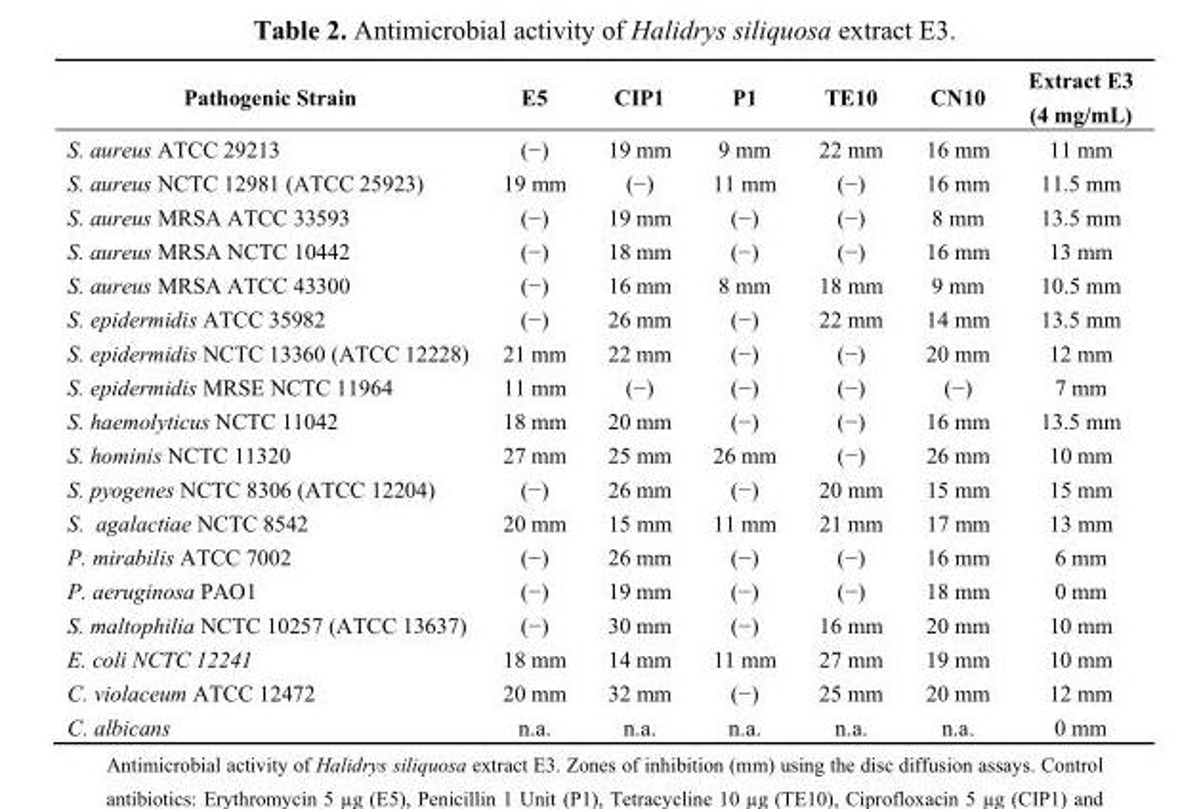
<table><thead><tr><td>Pathogenic Strain</td><td>E5</td><td>CIP1</td><td>P1</td><td>TE10</td><td>CN10</td><td>Extract E3 (4 mg/mL)</td></tr></thead><tbody><tr><td>S. aureus ATCC 29213</td><td>(−)</td><td>19 mm</td><td>9 mm</td><td>22 mm</td><td>16 mm</td><td>11 mm</td></tr><tr><td>S. aureus NCTC 12981 (ATCC 25923)</td><td>19 mm</td><td>(−)</td><td>11 mm</td><td>(−)</td><td>16 mm</td><td>11.5 mm</td></tr><tr><td>S. aureus MRSA ATCC 33593</td><td>(−)</td><td>19 mm</td><td>(−)</td><td>(−)</td><td>8 mm</td><td>13.5 mm</td></tr><tr><td>S. aureus MRSA NCTC 10442</td><td>(−)</td><td>18 mm</td><td>(−)</td><td>(−)</td><td>16 mm</td><td>13 mm</td></tr><tr><td>S. aureus MRSA ATCC 43300</td><td>(−)</td><td>16 mm</td><td>8 mm</td><td>18 mm</td><td>9 mm</td><td>10.5 mm</td></tr><tr><td>S. epidermidis ATCC 35982</td><td>(−)</td><td>26 mm</td><td>(−)</td><td>22 mm</td><td>14 mm</td><td>13.5 mm</td></tr><tr><td>S. epidermidis NCTC 13360 (ATCC 12228)</td><td>21 mm</td><td>22 mm</td><td>(−)</td><td>(−)</td><td>20 mm</td><td>12 mm</td></tr><tr><td>S. epidermidis MRSE NCTC 11964</td><td>11 mm</td><td>(−)</td><td>(−)</td><td>(−)</td><td>(−)</td><td>7 mm</td></tr><tr><td>S. haemolyticus NCTC 11042</td><td>18 mm</td><td>20 mm</td><td>(−)</td><td>(−)</td><td>16 mm</td><td>13.5 mm</td></tr><tr><td>S. hominis NCTC 11320</td><td>27 mm</td><td>25 mm</td><td>26 mm</td><td>(−)</td><td>26 mm</td><td>10 mm</td></tr><tr><td>S. pyogenes NCTC 8306 (ATCC 12204)</td><td>(−)</td><td>26 mm</td><td>(−)</td><td>20 mm</td><td>15 mm</td><td>15 mm</td></tr><tr><td>S. agalactiae NCTC 8542</td><td>20 mm</td><td>15 mm</td><td>11 mm</td><td>21 mm</td><td>17 mm</td><td>13 mm</td></tr><tr><td>P. mirabilis ATCC 7002</td><td>(−)</td><td>26 mm</td><td>(−)</td><td>(−)</td><td>16 mm</td><td>6 mm</td></tr><tr><td>P. aeruginosa PAO1</td><td>(−)</td><td>19 mm</td><td>(−)</td><td>(−)</td><td>18 mm</td><td>0 mm</td></tr><tr><td>S. maltophilia NCTC 10257 (ATCC 13637)</td><td>(−)</td><td>30 mm</td><td>(−)</td><td>16 mm</td><td>20 mm</td><td>10 mm</td></tr><tr><td>E. coli NCTC 12241</td><td>18 mm</td><td>14 mm</td><td>11 mm</td><td>27 mm</td><td>19 mm</td><td>10 mm</td></tr><tr><td>C. violaceum ATCC 12472</td><td>20 mm</td><td>32 mm</td><td>(−)</td><td>25 mm</td><td>20 mm</td><td>12 mm</td></tr><tr><td>C. albicans</td><td>n.a.</td><td>n.a.</td><td>n.a.</td><td>n.a.</td><td>n.a.</td><td>0 mm</td></tr></tbody></table>